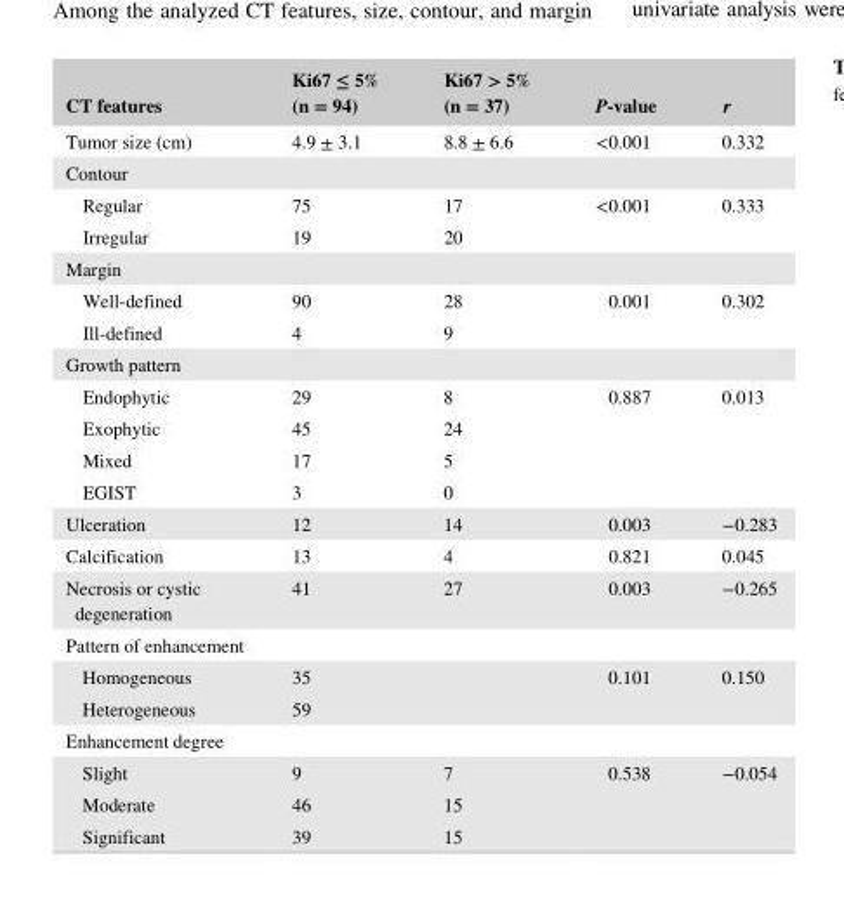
<table><thead><tr><td>CT features</td><td>Ki67 ≤ 5% (n = 94)</td><td>Ki67 &gt; 5% (n = 37)</td><td>P- value</td><td>r</td></tr></thead><tbody><tr><td>Tumor size (cm)</td><td>4.9 ± 3.1</td><td>8.8 ± 6.6</td><td>&lt;0.001</td><td>0.332</td></tr><tr><td colspan="5">Contour</td></tr><tr><td>Regular</td><td>75</td><td>17</td><td rowspan="2">&lt;0.001</td><td rowspan="2">0.333</td></tr><tr><td>Irregular</td><td>19</td><td>20</td></tr><tr><td colspan="5">Margin</td></tr><tr><td>Well- defined</td><td>90</td><td>28</td><td rowspan="2">0.001</td><td rowspan="2">0.302</td></tr><tr><td>Ill- defined</td><td>4</td><td>9</td></tr><tr><td colspan="5">Growth pattern</td></tr><tr><td>Endophytic</td><td>29</td><td>8</td><td rowspan="4">0.887</td><td rowspan="4">0.013</td></tr><tr><td>Exophytic</td><td>45</td><td>24</td></tr><tr><td>Mixed</td><td>17</td><td>5</td></tr><tr><td>EGIST</td><td>3</td><td>0</td></tr><tr><td>Ulceration</td><td>12</td><td>14</td><td>0.003</td><td>−0.283</td></tr><tr><td>Calcification</td><td>13</td><td>4</td><td>0.821</td><td>0.045</td></tr><tr><td>Necrosis or cystic degeneration</td><td>41</td><td>27</td><td>0.003</td><td>−0.265</td></tr><tr><td colspan="5">Pattern of enhancement</td></tr><tr><td>Homogeneous</td><td>35</td><td></td><td rowspan="2">0.101</td><td rowspan="2">0.150</td></tr><tr><td>Heterogeneous</td><td>59</td><td></td></tr><tr><td colspan="5">Enhancement degree</td></tr><tr><td>Slight</td><td>9</td><td>7</td><td rowspan="3">0.538</td><td rowspan="3">−0.054</td></tr><tr><td>Moderate</td><td>46</td><td>15</td></tr><tr><td>Significant</td><td>39</td><td>15</td></tr></tbody></table>